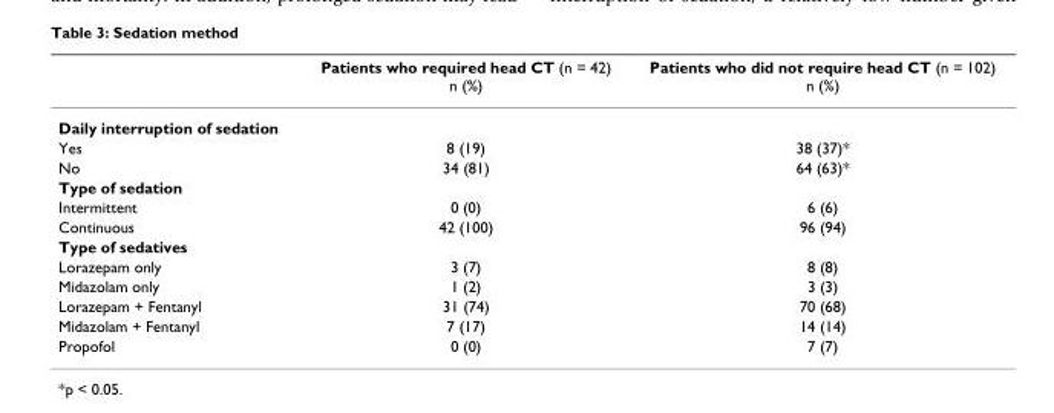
<table><thead><tr><td></td><td>Patients who required head CT (n = 42) n (%)</td><td>Patients who did not require head CT (n = 102) n (%)</td></tr></thead><tbody><tr><td colspan="3">Daily interruption of sedation</td></tr><tr><td>Yes</td><td>8 (19)</td><td>38 (37)*</td></tr><tr><td>No</td><td>34 (81)</td><td>64 (63)*</td></tr><tr><td colspan="3">Type of sedation</td></tr><tr><td>Intermittent</td><td>0 (0)</td><td>6 (6)</td></tr><tr><td>Continuous</td><td>42 (100)</td><td>96 (94)</td></tr><tr><td colspan="3">Type of sedatives</td></tr><tr><td>Lorazepam only</td><td>3 (7)</td><td>8 (8)</td></tr><tr><td>Midazolam only</td><td>1 (2)</td><td>3 (3)</td></tr><tr><td>Lorazepam + Fentanyl</td><td>31 (74)</td><td>70 (68)</td></tr><tr><td>Midazolam + Fentanyl</td><td>7 (17)</td><td>14 (14)</td></tr><tr><td>Propofol</td><td>0 (0)</td><td>7 (7)</td></tr></tbody></table>